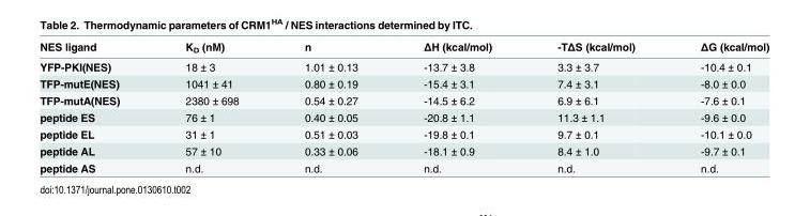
<table><thead><tr><td>NES ligand</td><td>K<sub>D</sub> (nM)</td><td>n</td><td>ΔH (kcal/mol)</td><td>-TΔS (kcal/mol)</td><td>ΔG (kcal/mol)</td></tr></thead><tbody><tr><td>YFP-PKI(NES)</td><td>18 ± 3</td><td>1.01 ± 0.13</td><td>-13.7 ± 3.8</td><td>3.3 ± 3.7</td><td>-10.4 ± 0.1</td></tr><tr><td>TFP-mutE(NES)</td><td>1041 ± 41</td><td>0.80 ± 0.19</td><td>-15.4 ± 3.1</td><td>7.4 ± 3.1</td><td>-8.0 ± 0.0</td></tr><tr><td>TFP-mutA(NES)</td><td>2380 ± 698</td><td>0.54 ± 0.27</td><td>-14.5 ± 6.2</td><td>6.9 ± 6.1</td><td>-7.6 ± 0.1</td></tr><tr><td>peptide ES</td><td>76 ± 1</td><td>0.40 ± 0.05</td><td>-20.8 ± 1.1</td><td>11.3 ± 1.1</td><td>-9.6 ± 0.0</td></tr><tr><td>peptide EL</td><td>31 ± 1</td><td>0.51 ± 0.03</td><td>-19.8 ± 0.1</td><td>9.7 ± 0.1</td><td>-10.1 ± 0.0</td></tr><tr><td>peptide AL</td><td>57 ± 10</td><td>0.33 ± 0.06</td><td>-18.1 ± 0.9</td><td>8.4 ± 1.0</td><td>-9.7 ± 0.1</td></tr><tr><td>peptide AS</td><td>n.d.</td><td>n.d.</td><td>n.d.</td><td>n.d.</td><td>n.d.</td></tr></tbody></table>